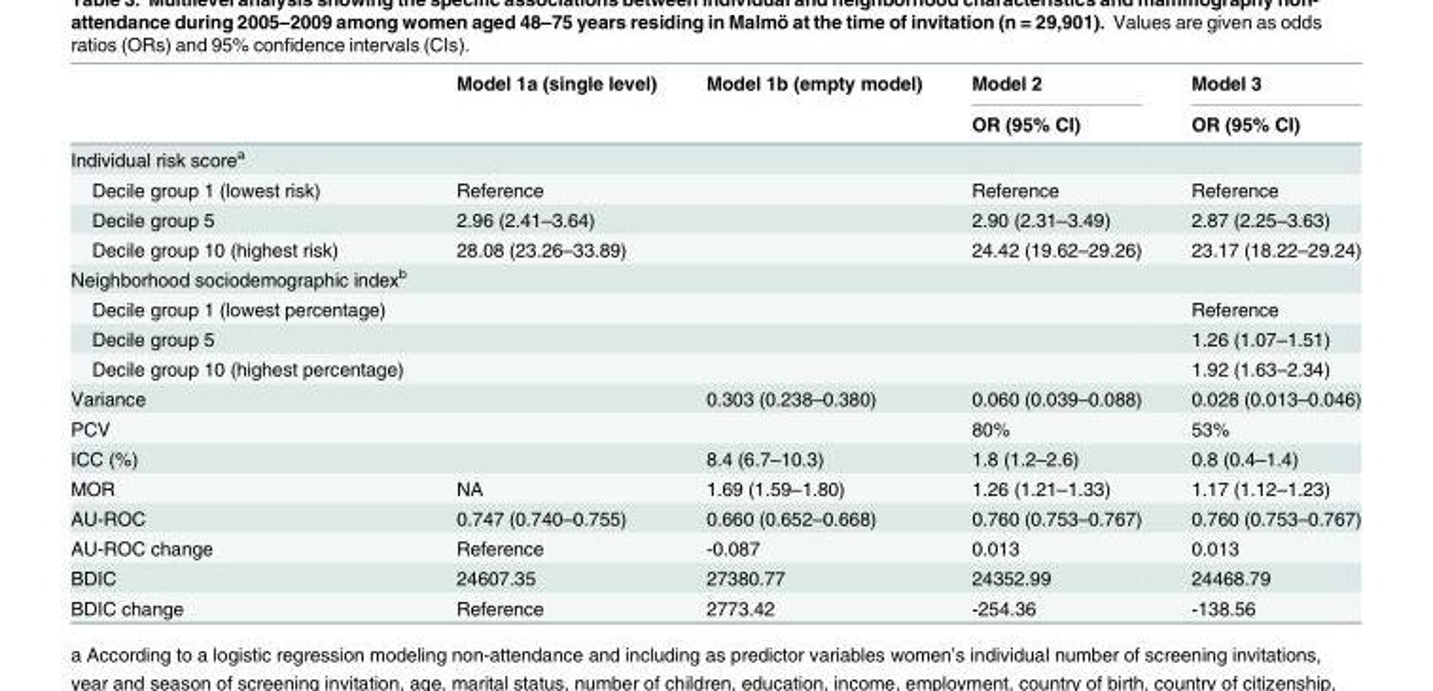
<table><thead><tr><td rowspan="2"></td><td rowspan="2">Model 1a (single level)</td><td rowspan="2">Model 1b (empty model)</td><td rowspan="2">Model 2 OR (95% CI)</td><td rowspan="2">Model 3 OR (95% CI)</td></tr><tr></tr></thead><tbody><tr><td colspan="5">Individual risk score<sup>a</sup></td></tr><tr><td>Decile group 1 (lowest risk)</td><td>Reference</td><td></td><td>Reference</td><td>Reference</td></tr><tr><td>Decile group 5</td><td>2.96 (2.41–3.64)</td><td></td><td>2.90 (2.31–3.49)</td><td>2.87 (2.25–3.63)</td></tr><tr><td>Decile group 10 (highest risk)</td><td>28.08 (23.26–33.89)</td><td></td><td>24.42 (19.62–29.26)</td><td>23.17 (18.22–29.24)</td></tr><tr><td colspan="5">Neighborhood sociodemographic index<sup>b</sup></td></tr><tr><td>Decile group 1 (lowest percentage)</td><td></td><td></td><td></td><td>Reference</td></tr><tr><td>Decile group 5</td><td></td><td></td><td></td><td>1.26 (1.07–1.51)</td></tr><tr><td>Decile group 10 (highest percentage)</td><td></td><td></td><td></td><td>1.92 (1.63–2.34)</td></tr><tr><td>Variance</td><td></td><td>0.303 (0.238–0.380)</td><td>0.060 (0.039–0.088)</td><td>0.028 (0.013–0.046)</td></tr><tr><td>PCV</td><td></td><td></td><td>80%</td><td>53%</td></tr><tr><td>ICC (%)</td><td></td><td>8.4 (6.7–10.3)</td><td>1.8 (1.2–2.6)</td><td>0.8 (0.4–1.4)</td></tr><tr><td>MOR</td><td>NA</td><td>1.69 (1.59–1.80)</td><td>1.26 (1.21–1.33)</td><td>1.17 (1.12–1.23)</td></tr><tr><td>AU-ROC</td><td>0.747 (0.740–0.755)</td><td>0.660 (0.652–0.668)</td><td>0.760 (0.753–0.767)</td><td>0.760 (0.753–0.767)</td></tr><tr><td>AU-ROC change</td><td>Reference</td><td>-0.087</td><td>0.013</td><td>0.013</td></tr><tr><td>BDIC</td><td>24607.35</td><td>27380.77</td><td>24352.99</td><td>24468.79</td></tr><tr><td>BDIC change</td><td>Reference</td><td>2773.42</td><td>-254.36</td><td>-138.56</td></tr></tbody></table>